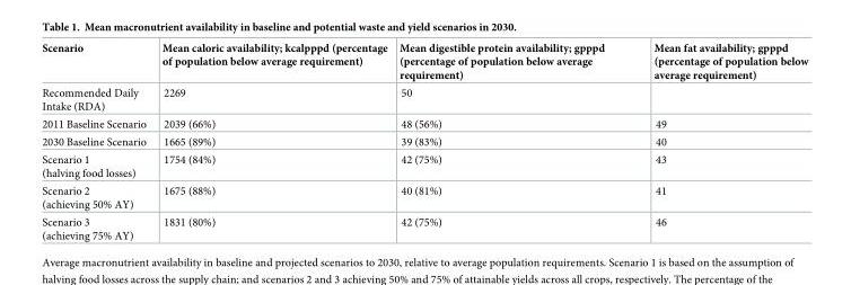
<table><thead><tr><td>Scenario</td><td>Mean caloric availability; kcalpppd (percentage of population below average requirement)</td><td>Mean digestible protein availability; gpppd (percentage of population below average requirement)</td><td>Mean fat availability; gpppd (percentage of population below average requirement)</td></tr></thead><tbody><tr><td>Recommended Daily Intake (RDA)</td><td>2269</td><td>50</td><td></td></tr><tr><td>2011 Baseline Scenario</td><td>2039 (66%)</td><td>48 (56%)</td><td>49</td></tr><tr><td>2030 Baseline Scenario</td><td>1665 (89%)</td><td>39 (83%)</td><td>40</td></tr><tr><td>Scenario 1 (halving food losses)</td><td>1754 (84%)</td><td>42 (75%)</td><td>43</td></tr><tr><td>Scenario 2 (achieving 50% AY)</td><td>1675 (88%)</td><td>40 (81%)</td><td>41</td></tr><tr><td>Scenario 3 (achieving 75% AY)</td><td>1831 (80%)</td><td>42 (75%)</td><td>46</td></tr></tbody></table>